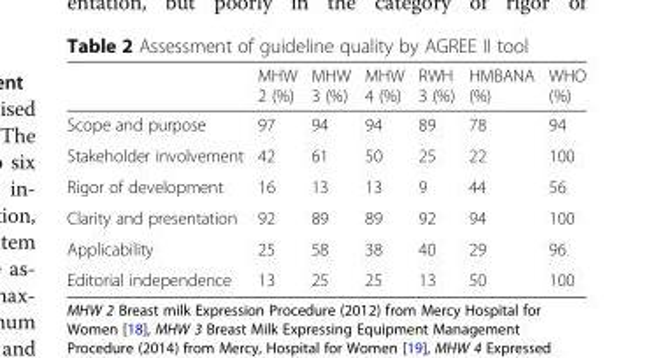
<table><thead><tr><td></td><td>MHW 2 (%)</td><td>MHW 3 (%)</td><td>MHW 4 (%)</td><td>RWH 3 (%)</td><td>HMBANA (%)</td><td>WHO (%)</td></tr></thead><tbody><tr><td>Scope and purpose</td><td>97</td><td>94</td><td>94</td><td>89</td><td>78</td><td>94</td></tr><tr><td>Stakeholder involvement</td><td>42</td><td>61</td><td>50</td><td>25</td><td>22</td><td>100</td></tr><tr><td>Rigor of development</td><td>16</td><td>13</td><td>13</td><td>9</td><td>44</td><td>56</td></tr><tr><td>Clarity and presentation</td><td>92</td><td>89</td><td>89</td><td>92</td><td>94</td><td>100</td></tr><tr><td>Applicability</td><td>25</td><td>58</td><td>38</td><td>40</td><td>29</td><td>96</td></tr><tr><td>Editorial independence</td><td>13</td><td>25</td><td>25</td><td>13</td><td>50</td><td>100</td></tr></tbody></table>